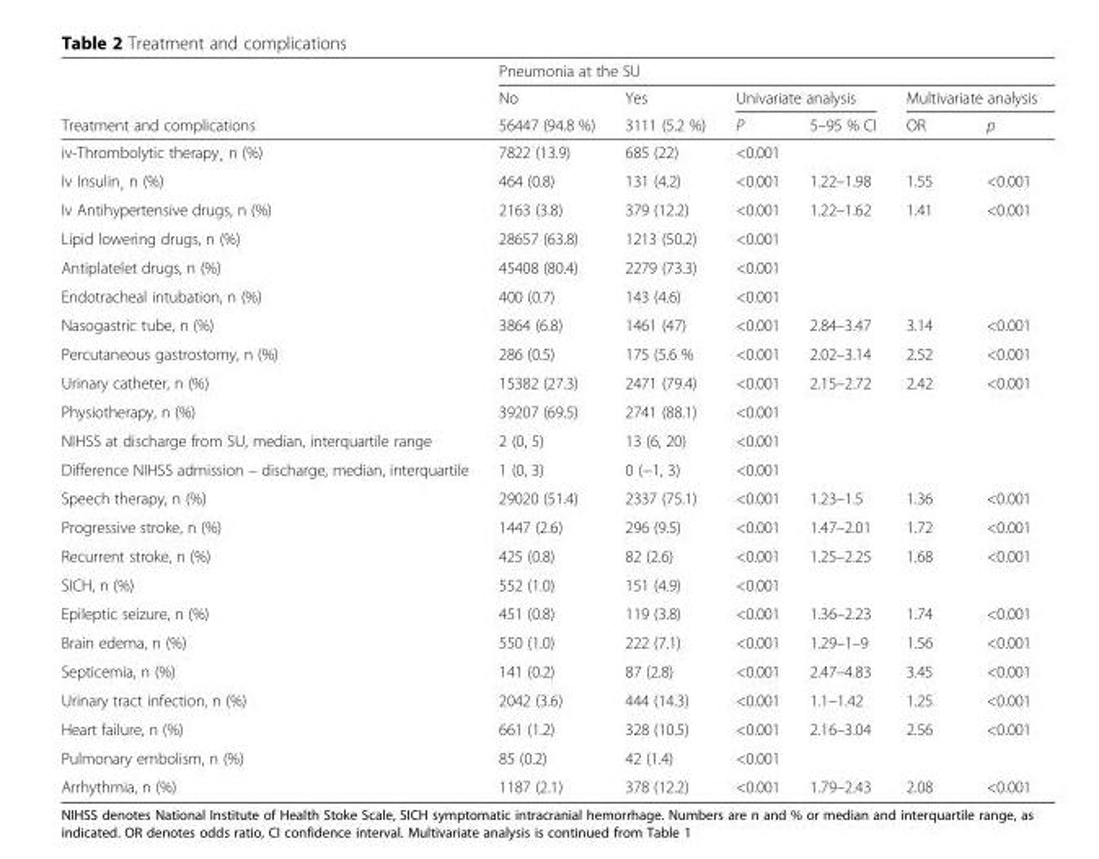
<table><thead><tr><td rowspan="3">Treatment and complications</td><td colspan="6">Pneumonia at the SU</td></tr><tr><td rowspan="2">No 56447 (94.8 %)</td><td rowspan="2">Yes 3111 (5.2 %)</td><td colspan="2">Univariate analysis</td><td colspan="2">Multivariate analysis</td></tr><tr><td>P</td><td>5–95 % CI</td><td>OR</td><td>p</td></tr></thead><tbody><tr><td>iv-Thrombolytic therapy¸ n (%)</td><td>7822 (13.9)</td><td>685 (22)</td><td>&lt;0.001</td><td></td><td></td><td></td></tr><tr><td>Iv Insulin¸ n (%)</td><td>464 (0.8)</td><td>131 (4.2)</td><td>&lt;0.001</td><td>1.22–1.98</td><td>1.55</td><td>&lt;0.001</td></tr><tr><td>Iv Antihypertensive drugs, n (%)</td><td>2163 (3.8)</td><td>379 (12.2)</td><td>&lt;0.001</td><td>1.22–1.62</td><td>1.41</td><td>&lt;0.001</td></tr><tr><td>Lipid lowering drugs, n (%)</td><td>28657 (63.8)</td><td>1213 (50.2)</td><td>&lt;0.001</td><td></td><td></td><td></td></tr><tr><td>Antiplatelet drugs, n (%)</td><td>45408 (80.4)</td><td>2279 (73.3)</td><td>&lt;0.001</td><td></td><td></td><td></td></tr><tr><td>Endotracheal intubation, n (%)</td><td>400 (0.7)</td><td>143 (4.6)</td><td>&lt;0.001</td><td></td><td></td><td></td></tr><tr><td>Nasogastric tube, n (%)</td><td>3864 (6.8)</td><td>1461 (47)</td><td>&lt;0.001</td><td>2.84–3.47</td><td>3.14</td><td>&lt;0.001</td></tr><tr><td>Percutaneous gastrostomy, n (%)</td><td>286 (0.5)</td><td>175 (5.6 %</td><td>&lt;0.001</td><td>2.02–3.14</td><td>2.52</td><td>&lt;0.001</td></tr><tr><td>Urinary catheter, n (%)</td><td>15382 (27.3)</td><td>2471 (79.4)</td><td>&lt;0.001</td><td>2.15–2.72</td><td>2.42</td><td>&lt;0.001</td></tr><tr><td>Physiotherapy, n (%)</td><td>39207 (69.5)</td><td>2741 (88.1)</td><td>&lt;0.001</td><td></td><td></td><td></td></tr><tr><td>NIHSS at discharge from SU, median, interquartile range</td><td>2 (0, 5)</td><td>13 (6, 20)</td><td>&lt;0.001</td><td></td><td></td><td></td></tr><tr><td>Difference NIHSS admission – discharge, median, interquartile</td><td>1 (0, 3)</td><td>0 (−1, 3)</td><td>&lt;0.001</td><td></td><td></td><td></td></tr><tr><td>Speech therapy, n (%)</td><td>29020 (51.4)</td><td>2337 (75.1)</td><td>&lt;0.001</td><td>1.23–1.5</td><td>1.36</td><td>&lt;0.001</td></tr><tr><td>Progressive stroke, n (%)</td><td>1447 (2.6)</td><td>296 (9.5)</td><td>&lt;0.001</td><td>1.47–2.01</td><td>1.72</td><td>&lt;0.001</td></tr><tr><td>Recurrent stroke, n (%)</td><td>425 (0.8)</td><td>82 (2.6)</td><td>&lt;0.001</td><td>1.25–2.25</td><td>1.68</td><td>&lt;0.001</td></tr><tr><td>SICH, n (%)</td><td>552 (1.0)</td><td>151 (4.9)</td><td>&lt;0.001</td><td></td><td></td><td></td></tr><tr><td>Epileptic seizure, n (%)</td><td>451 (0.8)</td><td>119 (3.8)</td><td>&lt;0.001</td><td>1.36–2.23</td><td>1.74</td><td>&lt;0.001</td></tr><tr><td>Brain edema, n (%)</td><td>550 (1.0)</td><td>222 (7.1)</td><td>&lt;0.001</td><td>1.29–1–9</td><td>1.56</td><td>&lt;0.001</td></tr><tr><td>Septicemia, n (%)</td><td>141 (0.2)</td><td>87 (2.8)</td><td>&lt;0.001</td><td>2.47–4.83</td><td>3.45</td><td>&lt;0.001</td></tr><tr><td>Urinary tract infection, n (%)</td><td>2042 (3.6)</td><td>444 (14.3)</td><td>&lt;0.001</td><td>1.1–1.42</td><td>1.25</td><td>&lt;0.001</td></tr><tr><td>Heart failure, n (%)</td><td>661 (1.2)</td><td>328 (10.5)</td><td>&lt;0.001</td><td>2.16–3.04</td><td>2.56</td><td>&lt;0.001</td></tr><tr><td>Pulmonary embolism, n (%)</td><td>85 (0.2)</td><td>42 (1.4)</td><td>&lt;0.001</td><td></td><td></td><td></td></tr><tr><td>Arrhythmia, n (%)</td><td>1187 (2.1)</td><td>378 (12.2)</td><td>&lt;0.001</td><td>1.79–2.43</td><td>2.08</td><td>&lt;0.001</td></tr></tbody></table>